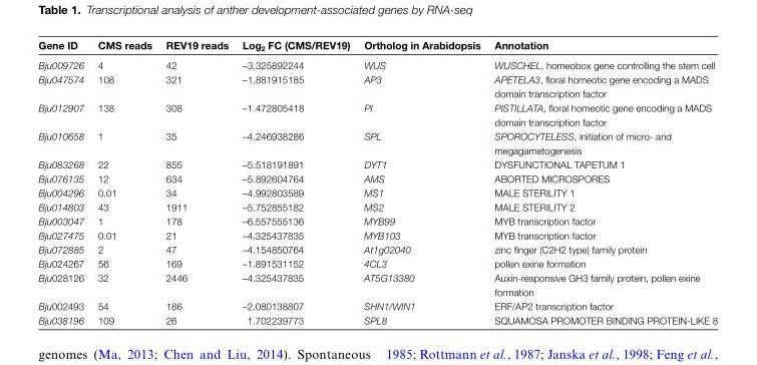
<table><thead><tr><td>Gene ID</td><td>CMS reads</td><td>REV19 reads</td><td>Log<sub>2</sub> FC (CMS/REV19)</td><td>Ortholog in Arabidopsis</td><td>Annotation</td></tr></thead><tbody><tr><td>Bju009726</td><td>4</td><td>42</td><td>–3.325892244</td><td>WUS</td><td>WUSCHEL, homeobox gene controlling the stem cell</td></tr><tr><td>Bju047574</td><td>108</td><td>321</td><td>–1.881915185</td><td>AP3</td><td>APETELA3, floral homeotic gene encoding a MADS domain transcription factor</td></tr><tr><td>Bju012907</td><td>138</td><td>308</td><td>–1.472805418</td><td>PI</td><td>PISTILLATA, floral homeotic gene encoding a MADS domain transcription factor</td></tr><tr><td>Bju010658</td><td>1</td><td>35</td><td>–4.246938286</td><td>SPL</td><td>SPOROCYTELESS, initiation of micro- and megagametogenesis</td></tr><tr><td>Bju083268</td><td>22</td><td>855</td><td>–5.518191891</td><td>DYT1</td><td>DYSFUNCTIONAL TAPETUM 1</td></tr><tr><td>Bju076135</td><td>12</td><td>634</td><td>–5.892604764</td><td>AMS</td><td>ABORTED MICROSPORES</td></tr><tr><td>Bju004296</td><td>0.01</td><td>34</td><td>–4.992803589</td><td>MS1</td><td>MALE STERILITY 1</td></tr><tr><td>Bju014803</td><td>43</td><td>1911</td><td>–5.752855182</td><td>MS2</td><td>MALE STERILITY 2</td></tr><tr><td>Bju003047</td><td>1</td><td>178</td><td>–6.557555136</td><td>MYB99</td><td>MYB transcription factor</td></tr><tr><td>Bju027475</td><td>0.01</td><td>21</td><td>–4.325437835</td><td>MYB103</td><td>MYB transcription factor</td></tr><tr><td>Bju072885</td><td>2</td><td>47</td><td>–4.154850764</td><td>At1g02040</td><td>zinc finger (C2H2 type) family protein</td></tr><tr><td>Bju024267</td><td>56</td><td>169</td><td>–1.891531152</td><td>4CL3</td><td>pollen exine formation</td></tr><tr><td>Bju028126</td><td>32</td><td>2446</td><td>–4.325437835</td><td>AT5G13380</td><td>Auxin-responsive GH3 family protein, pollen exine formation</td></tr><tr><td>Bju002493</td><td>54</td><td>186</td><td>–2.080138807</td><td>SHN1/WIN1</td><td>ERF/AP2 transcription factor</td></tr><tr><td>Bju038196</td><td>109</td><td>26</td><td>1.702239773</td><td>SPL8</td><td>SQUAMOSA PROMOTER BINDING PROTEIN-LIKE 8</td></tr></tbody></table>